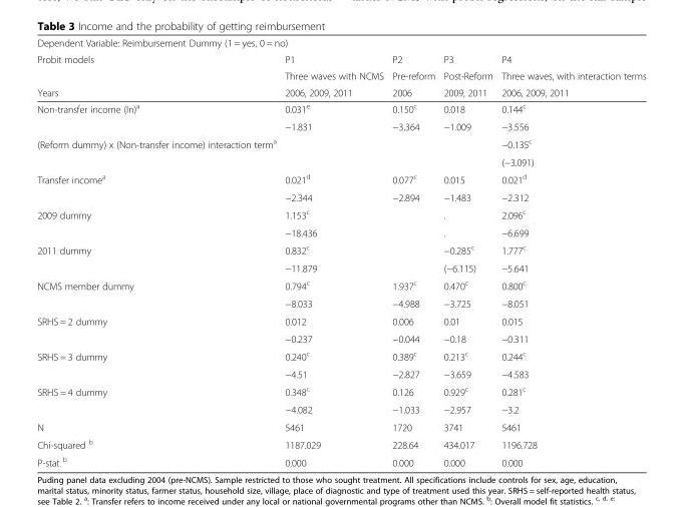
<table><thead><tr><td colspan="5">Dependent Variable: Reimbursement Dummy (1 = yes, 0 = no)</td></tr><tr><td rowspan="3">Probit models Years</td><td rowspan="3">P1 Three waves with NCMS 2006, 2009, 2011</td><td rowspan="3">P2 Pre-reform 2006</td><td rowspan="3">P3 Post-Reform 2009, 2011</td><td rowspan="3">P4 Three waves, with interaction terms 2006, 2009, 2011</td></tr><tr></tr><tr></tr></thead><tbody><tr><td rowspan="2">Non-transfer income (ln)<sup>a</sup></td><td>0.031<sup>e</sup></td><td>0.150<sup>c</sup></td><td>0.018</td><td>0.144<sup>c</sup></td></tr><tr><td>−1.831</td><td>−3.364</td><td>−1.009</td><td>−3.556</td></tr><tr><td rowspan="2">(Reform dummy) x (Non-transfer income) interaction term<sup>a</sup></td><td></td><td></td><td></td><td>−0.135<sup>c</sup></td></tr><tr><td></td><td></td><td></td><td>(−3.091)</td></tr><tr><td rowspan="2">Transfer income<sup>a</sup></td><td>0.021<sup>d</sup></td><td>0.077<sup>c</sup></td><td>0.015</td><td>0.021<sup>d</sup></td></tr><tr><td>−2.344</td><td>−2.894</td><td>−1.483</td><td>−2.312</td></tr><tr><td rowspan="2">2009 dummy</td><td>1.153<sup>c</sup></td><td></td><td>.</td><td>2.096<sup>c</sup></td></tr><tr><td>−18.436</td><td></td><td>.</td><td>−6.699</td></tr><tr><td rowspan="2">2011 dummy</td><td>0.832<sup>c</sup></td><td></td><td>−0.285<sup>c</sup></td><td>1.777<sup>c</sup></td></tr><tr><td>−11.879</td><td></td><td>(−6.115)</td><td>−5.641</td></tr><tr><td rowspan="2">NCMS member dummy</td><td>0.794<sup>c</sup></td><td>1.937<sup>c</sup></td><td>0.470<sup>c</sup></td><td>0.800<sup>c</sup></td></tr><tr><td>−8.033</td><td>−4.988</td><td>−3.725</td><td>−8.051</td></tr><tr><td rowspan="2">SRHS = 2 dummy</td><td>0.012</td><td>0.006</td><td>0.01</td><td>0.015</td></tr><tr><td>−0.237</td><td>−0.044</td><td>−0.18</td><td>−0.311</td></tr><tr><td rowspan="2">SRHS = 3 dummy</td><td>0.240<sup>c</sup></td><td>0.389<sup>c</sup></td><td>0.213<sup>c</sup></td><td>0.244<sup>c</sup></td></tr><tr><td>−4.51</td><td>−2.827</td><td>−3.659</td><td>−4.583</td></tr><tr><td rowspan="2">SRHS = 4 dummy</td><td>0.348<sup>c</sup></td><td>0.126</td><td>0.929<sup>c</sup></td><td>0.281<sup>c</sup></td></tr><tr><td>−4.082</td><td>−1.033</td><td>−2.957</td><td>−3.2</td></tr><tr><td>N</td><td>5461</td><td>1720</td><td>3741</td><td>5461</td></tr><tr><td>Chi-squared <sup>b</sup></td><td>1187.029</td><td>228.64</td><td>434.017</td><td>1196.728</td></tr><tr><td>P-stat <sup>b</sup></td><td>0.000</td><td>0.000</td><td>0.000</td><td>0.000</td></tr></tbody></table>